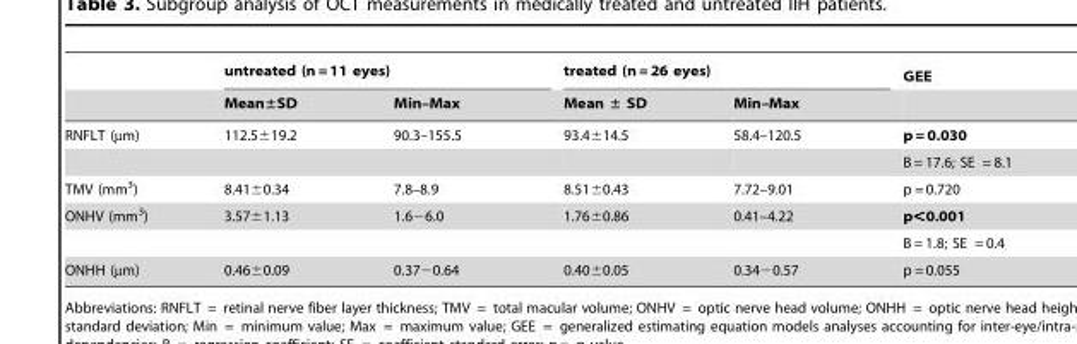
<table><thead><tr><td rowspan="2"></td><td colspan="2">untreated (n = 11 eyes)</td><td colspan="2">treated (n = 26 eyes)</td><td rowspan="2">GEE</td></tr><tr><td>Mean±SD</td><td>Min–Max</td><td>Mean ± SD</td><td>Min–Max</td></tr></thead><tbody><tr><td rowspan="2">RNFLT (µm)</td><td>112.5±19.2</td><td>90.3–155.5</td><td>93.4±14.5</td><td>58.4–120.5</td><td>p = 0.030</td></tr><tr><td></td><td></td><td></td><td></td><td>B = 17.6; SE = 8.1</td></tr><tr><td>TMV (mm<sup>3</sup>)</td><td>8.41±0.34</td><td>7.8–8.9</td><td>8.51±0.43</td><td>7.72–9.01</td><td>p = 0.720</td></tr><tr><td rowspan="2">ONHV (mm<sup>3</sup>)</td><td>3.57±1.13</td><td>1.6−6.0</td><td>1.76±0.86</td><td>0.41–4.22</td><td>p&lt;0.001</td></tr><tr><td></td><td></td><td></td><td></td><td>B = 1.8; SE = 0.4</td></tr><tr><td>ONHH (µm)</td><td>0.46±0.09</td><td>0.37−0.64</td><td>0.40±0.05</td><td>0.34−0.57</td><td>p = 0.055</td></tr></tbody></table>